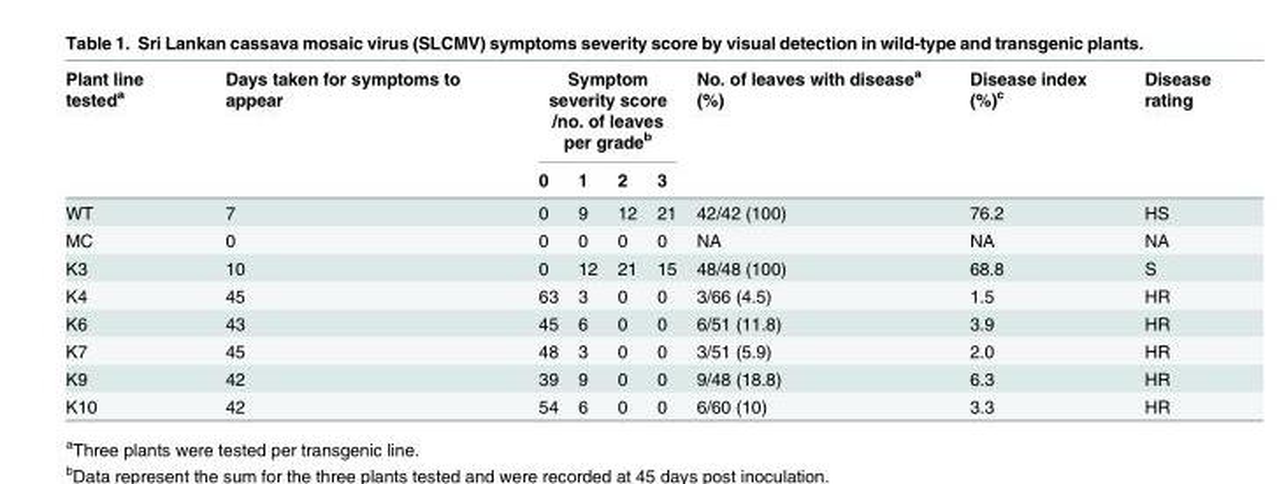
<table><thead><tr><td rowspan="2">Plant line tested<sup>a</sup></td><td rowspan="2">Days taken for symptoms to appear</td><td colspan="4">Symptom severity score /no. of leaves per grade<sup>b</sup></td><td rowspan="2">No. of leaves with disease<sup>a</sup> (%)</td><td rowspan="2">Disease index (%)<sup>c</sup></td><td rowspan="2">Disease rating</td></tr><tr><td>0</td><td>1</td><td>2</td><td>3</td></tr></thead><tbody><tr><td>WT</td><td>7</td><td>0</td><td>9</td><td>12</td><td>21</td><td>42/42 (100)</td><td>76.2</td><td>HS</td></tr><tr><td>MC</td><td>0</td><td>0</td><td>0</td><td>0</td><td>0</td><td>NA</td><td>NA</td><td>NA</td></tr><tr><td>K3</td><td>10</td><td>0</td><td>12</td><td>21</td><td>15</td><td>48/48 (100)</td><td>68.8</td><td>S</td></tr><tr><td>K4</td><td>45</td><td>63</td><td>3</td><td>0</td><td>0</td><td>3/66 (4.5)</td><td>1.5</td><td>HR</td></tr><tr><td>K6</td><td>43</td><td>45</td><td>6</td><td>0</td><td>0</td><td>6/51 (11.8)</td><td>3.9</td><td>HR</td></tr><tr><td>K7</td><td>45</td><td>48</td><td>3</td><td>0</td><td>0</td><td>3/51 (5.9)</td><td>2.0</td><td>HR</td></tr><tr><td>K9</td><td>42</td><td>39</td><td>9</td><td>0</td><td>0</td><td>9/48 (18.8)</td><td>6.3</td><td>HR</td></tr><tr><td>K10</td><td>42</td><td>54</td><td>6</td><td>0</td><td>0</td><td>6/60 (10)</td><td>3.3</td><td>HR</td></tr></tbody></table>